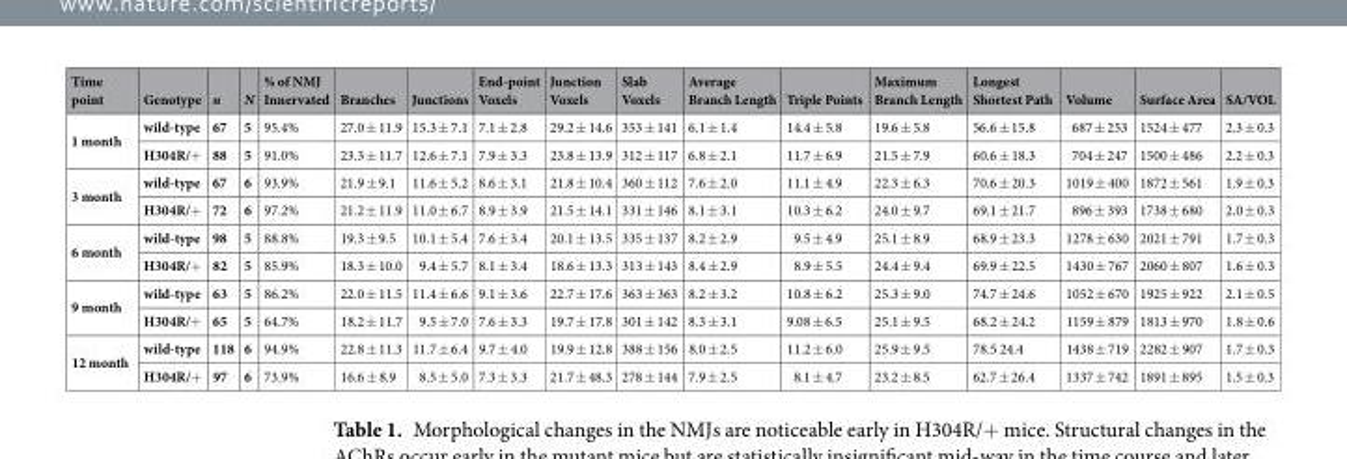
<table><thead><tr><td>Time point</td><td>Genotype</td><td>n</td><td>N</td><td>% of NMJ Innervated</td><td>Branches</td><td>Junctions</td><td>End-point Voxels</td><td>Junction Voxels</td><td>Slab Voxels</td><td>Average Branch Length</td><td>Triple Points</td><td>Maximum Branch Length</td><td>Longest Shortest Path</td><td>Volume</td><td>Surface Area</td><td>SA/VOL</td></tr></thead><tbody><tr><td rowspan="2">1 month</td><td>wild-type</td><td>67</td><td>5</td><td>95.4%</td><td>27.0 ± 11.9</td><td>15.3 ± 7.1</td><td>7.1 ± 2.8</td><td>29.2 ± 14.6</td><td>353 ± 141</td><td>6.1 ± 1.4</td><td>14.4 ± 5.8</td><td>19.6 ± 5.8</td><td>56.6 ± 15.8</td><td>687 ± 253</td><td>1524 ± 477</td><td>2.3 ± 0.3</td></tr><tr><td>H304R/+</td><td>88</td><td>5</td><td>91.0%</td><td>23.3 ± 11.7</td><td>12.6 ± 7.1</td><td>7.9 ± 3.3</td><td>23.8 ± 13.9</td><td>312 ± 117</td><td>6.8 ± 2.1</td><td>11.7 ± 6.9</td><td>21.5 ± 7.9</td><td>60.6 ± 18.3</td><td>704 ± 247</td><td>1500 ± 486</td><td>2.2 ± 0.3</td></tr><tr><td rowspan="2">3 month</td><td>wild-type</td><td>67</td><td>6</td><td>93.9%</td><td>21.9 ± 9.1</td><td>11.6 ± 5.2</td><td>8.6 ± 3.1</td><td>21.8 ± 10.4</td><td>360 ± 112</td><td>7.6 ± 2.0</td><td>11.1 ± 4.9</td><td>22.3 ± 6.3</td><td>70.6 ± 20.3</td><td>1019 ± 400</td><td>1872 ± 561</td><td>1.9 ± 0.3</td></tr><tr><td>H304R/+</td><td>72</td><td>6</td><td>97.2%</td><td>21.2 ± 11.9</td><td>11.0 ± 6.7</td><td>8.9 ± 3.9</td><td>21.5 ± 14.1</td><td>331 ± 146</td><td>8.1 ± 3.1</td><td>10.3 ± 6.2</td><td>24.0 ± 9.7</td><td>69.1 ± 21.7</td><td>896 ± 393</td><td>1738 ± 680</td><td>2.0 ± 0.3</td></tr><tr><td rowspan="2">6 month</td><td>wild-type</td><td>98</td><td>5</td><td>88.8%</td><td>19.3 ± 9.5</td><td>10.1 ± 5.4</td><td>7.6 ± 3.4</td><td>20.1 ± 13.5</td><td>335 ± 137</td><td>8.2 ± 2.9</td><td>9.5 ± 4.9</td><td>25.1 ± 8.9</td><td>68.9 ± 23.3</td><td>1278 ± 630</td><td>2021 ± 791</td><td>1.7 ± 0.3</td></tr><tr><td>H304R/+</td><td>82</td><td>5</td><td>85.9%</td><td>18.3 ± 10.0</td><td>9.4 ± 5.7</td><td>8.1 ± 3.4</td><td>18.6 ± 13.3</td><td>313 ± 143</td><td>8.4 ± 2.9</td><td>8.9 ± 5.5</td><td>24.4 ± 9.4</td><td>69.9 ± 22.5</td><td>1430 ± 767</td><td>2060 ± 807</td><td>1.6 ± 0.3</td></tr><tr><td rowspan="2">9 month</td><td>wild-type</td><td>63</td><td>5</td><td>86.2%</td><td>22.0 ± 11.5</td><td>11.4 ± 6.6</td><td>9.1 ± 3.6</td><td>22.7 ± 17.6</td><td>363 ± 363</td><td>8.2 ± 3.2</td><td>10.8 ± 6.2</td><td>25.3 ± 9.0</td><td>74.7 ± 24.6</td><td>1052 ± 670</td><td>1925 ± 922</td><td>2.1 ± 0.5</td></tr><tr><td>H304R/+</td><td>65</td><td>5</td><td>64.7%</td><td>18.2 ± 11.7</td><td>9.5 ± 7.0</td><td>7.6 ± 3.3</td><td>19.7 ± 17.8</td><td>301 ± 142</td><td>8.3 ± 3.1</td><td>9.08 ± 6.5</td><td>25.1 ± 9.5</td><td>68.2 ± 24.2</td><td>1159 ± 879</td><td>1813 ± 970</td><td>1.8 ± 0.6</td></tr><tr><td rowspan="2">12 month</td><td>wild-type</td><td>118</td><td>6</td><td>94.9%</td><td>22.8 ± 11.3</td><td>11.7 ± 6.4</td><td>9.7 ± 4.0</td><td>19.9 ± 12.8</td><td>388 ± 156</td><td>8.0 ± 2.5</td><td>11.2 ± 6.0</td><td>25.9 ± 9.5</td><td>78.5 24.4</td><td>1438 ± 719</td><td>2282 ± 907</td><td>1.7 ± 0.3</td></tr><tr><td>H304R/+</td><td>97</td><td>6</td><td>73.9%</td><td>16.6 ± 8.9</td><td>8.5 ± 5.0</td><td>7.3 ± 3.3</td><td>21.7 ± 48.3</td><td>278 ± 144</td><td>7.9 ± 2.5</td><td>8.1 ± 4.7</td><td>23.2 ± 8.5</td><td>62.7 ± 26.4</td><td>1337 ± 742</td><td>1891 ± 895</td><td>1.5 ± 0.3</td></tr></tbody></table>